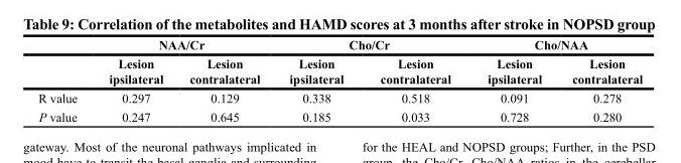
<table><thead><tr><td rowspan="2"></td><td colspan="2">NAA/Cr</td><td colspan="2">Cho/Cr</td><td colspan="2">Cho/NAA</td></tr><tr><td>Lesion ipsilateral</td><td>Lesion contralateral</td><td>Lesion ipsilateral</td><td>Lesion contralateral</td><td>Lesion ipsilateral</td><td>Lesion contralateral</td></tr></thead><tbody><tr><td>R value</td><td>0.297</td><td>0.129</td><td>0.338</td><td>0.518</td><td>0.091</td><td>0.278</td></tr><tr><td>P value</td><td>0.247</td><td>0.645</td><td>0.185</td><td>0.033</td><td>0.728</td><td>0.280</td></tr></tbody></table>